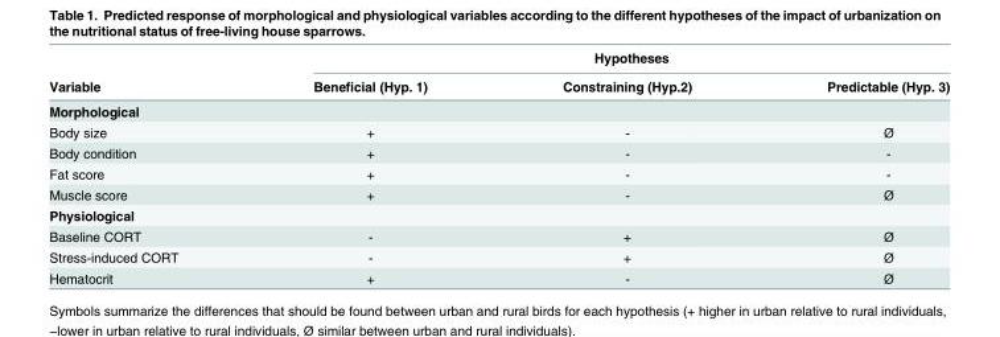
<table><thead><tr><td rowspan="2">Variable</td><td colspan="3">Hypotheses</td></tr><tr><td>Beneficial (Hyp. 1)</td><td>Constraining (Hyp.2)</td><td>Predictable (Hyp. 3)</td></tr></thead><tbody><tr><td colspan="4">Morphological</td></tr><tr><td>Body size</td><td>+</td><td>-</td><td>Ø</td></tr><tr><td>Body condition</td><td>+</td><td>-</td><td>-</td></tr><tr><td>Fat score</td><td>+</td><td>-</td><td>-</td></tr><tr><td>Muscle score</td><td>+</td><td>-</td><td>Ø</td></tr><tr><td colspan="4">Physiological</td></tr><tr><td>Baseline CORT</td><td>-</td><td>+</td><td>Ø</td></tr><tr><td>Stress-induced CORT</td><td>-</td><td>+</td><td>Ø</td></tr><tr><td>Hematocrit</td><td>+</td><td>-</td><td>Ø</td></tr></tbody></table>